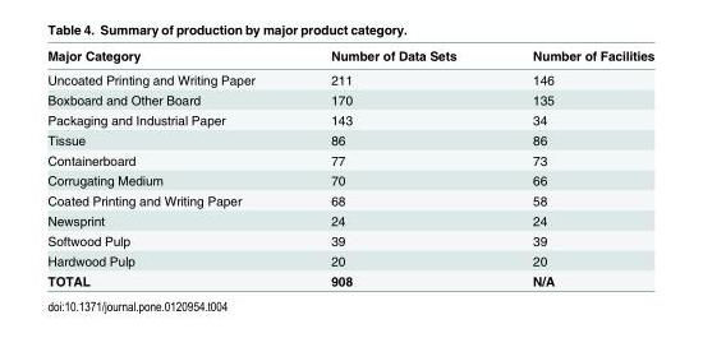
<table><thead><tr><td>Major Category</td><td>Number of Data Sets</td><td>Number of Facilities</td></tr></thead><tbody><tr><td>Uncoated Printing and Writing Paper</td><td>211</td><td>146</td></tr><tr><td>Boxboard and Other Board</td><td>170</td><td>135</td></tr><tr><td>Packaging and Industrial Paper</td><td>143</td><td>34</td></tr><tr><td>Tissue</td><td>86</td><td>86</td></tr><tr><td>Containerboard</td><td>77</td><td>73</td></tr><tr><td>Corrugating Medium</td><td>70</td><td>66</td></tr><tr><td>Coated Printing and Writing Paper</td><td>68</td><td>58</td></tr><tr><td>Newsprint</td><td>24</td><td>24</td></tr><tr><td>Softwood Pulp</td><td>39</td><td>39</td></tr><tr><td>Hardwood Pulp</td><td>20</td><td>20</td></tr><tr><td>TOTAL</td><td>908</td><td>N/A</td></tr></tbody></table>